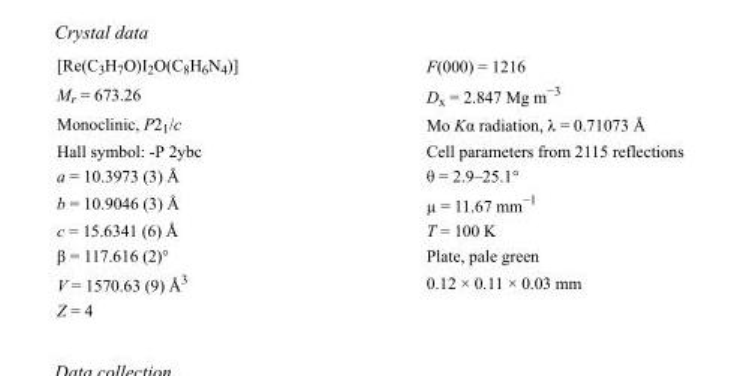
<table><tbody><tr><td>[Re(C<sub>3</sub>H<sub>7</sub>O)I<sub>2</sub>O(C<sub>8</sub>H<sub>6</sub>N<sub>4</sub>)]</td><td>F(000) = 1216</td></tr><tr><td>M<sub>r</sub> = 673.26</td><td>D<sub>x</sub> = 2.847 Mg m<sup>−3</sup></td></tr><tr><td>Monoclinic, P2<sub>1</sub>/c</td><td>Mo Kα radiation, λ = 0.71073 Å</td></tr><tr><td>Hall symbol: -P 2ybc</td><td>Cell parameters from 2115 reflections</td></tr><tr><td>a = 10.3973 (3) Å</td><td>θ = 2.9–25.1°</td></tr><tr><td>b = 10.9046 (3) Å</td><td>µ = 11.67 mm<sup>−1</sup></td></tr><tr><td>c = 15.6341 (6) Å</td><td>T = 100 K</td></tr><tr><td>β = 117.616 (2)°</td><td>Plate, pale green</td></tr><tr><td>V = 1570.63 (9) Å<sup>3</sup></td><td>0.12 × 0.11 × 0.03 mm</td></tr><tr><td>Z = 4</td><td></td></tr></tbody></table>